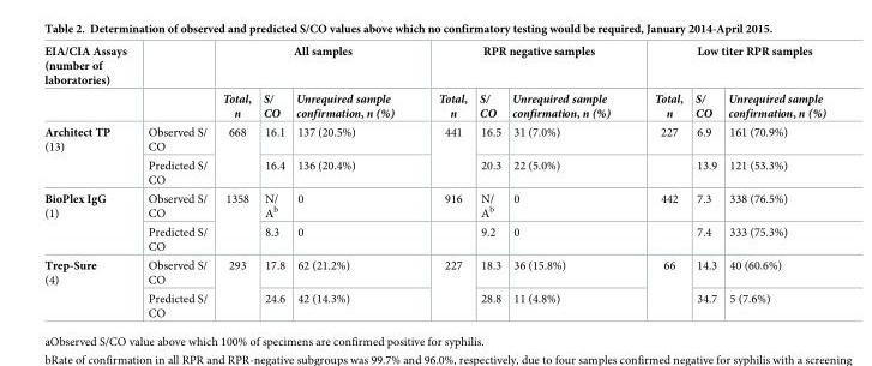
<table><thead><tr><td rowspan="2">EIA/CIA Assays (number of laboratories)</td><td rowspan="2"></td><td colspan="3">All samples</td><td colspan="3">RPR negative samples</td><td colspan="3">Low titer RPR samples</td></tr><tr><td>Total, n</td><td>S/ CO</td><td>Unrequired sample confirmation, n (%)</td><td>Total, n</td><td>S/ CO</td><td>Unrequired sample confirmation, n (%)</td><td>Total, n</td><td>S/ CO</td><td>Unrequired sample confirmation, n (%)</td></tr></thead><tbody><tr><td rowspan="2">Architect TP (13)</td><td>Observed S/ CO</td><td rowspan="2">668</td><td>16.1</td><td>137 (20.5%)</td><td rowspan="2">441</td><td>16.5</td><td>31 (7.0%)</td><td>227</td><td>6.9</td><td>161 (70.9%)</td></tr><tr><td>Predicted S/ CO</td><td>16.4</td><td>136 (20.4%)</td><td>20.3</td><td>22 (5.0%)</td><td></td><td>13.9</td><td>121 (53.3%)</td></tr><tr><td rowspan="2">BioPlex IgG (1)</td><td>Observed S/ CO</td><td rowspan="2">1358</td><td>N/ A<sup>b</sup></td><td>0</td><td>916</td><td>N/ A<sup>b</sup></td><td>0</td><td>442</td><td>7.3</td><td>338 (76.5%)</td></tr><tr><td>Predicted S/ CO</td><td>8.3</td><td>0</td><td></td><td>9.2</td><td>0</td><td></td><td>7.4</td><td>333 (75.3%)</td></tr><tr><td rowspan="2">Trep-Sure (4)</td><td>Observed S/ CO</td><td rowspan="2">293</td><td>17.8</td><td>62 (21.2%)</td><td rowspan="2">227</td><td>18.3</td><td>36 (15.8%)</td><td rowspan="2">66</td><td>14.3</td><td>40 (60.6%)</td></tr><tr><td>Predicted S/ CO</td><td>24.6</td><td>42 (14.3%)</td><td>28.8</td><td>11 (4.8%)</td><td>34.7</td><td>5 (7.6%)</td></tr></tbody></table>